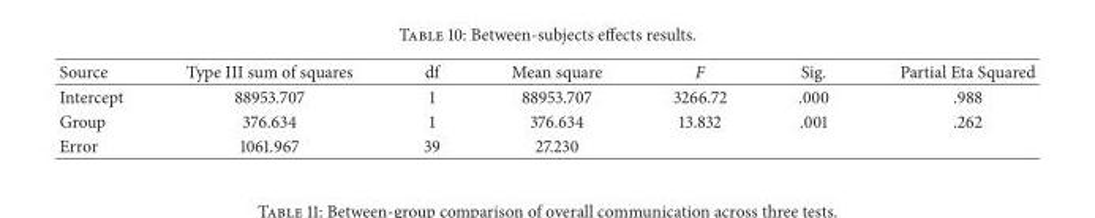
<table><thead><tr><td>Source</td><td>Type III sum of squares</td><td>df</td><td>Mean square</td><td>F</td><td>Sig.</td><td>Partial Eta Squared</td></tr></thead><tbody><tr><td>Intercept</td><td>88953.707</td><td>1</td><td>88953.707</td><td>3266.72</td><td>.000</td><td>.988</td></tr><tr><td>Group</td><td>376.634</td><td>1</td><td>376.634</td><td>13.832</td><td>.001</td><td>.262</td></tr><tr><td>Error</td><td>1061.967</td><td>39</td><td>27.230</td><td></td><td></td><td></td></tr></tbody></table>